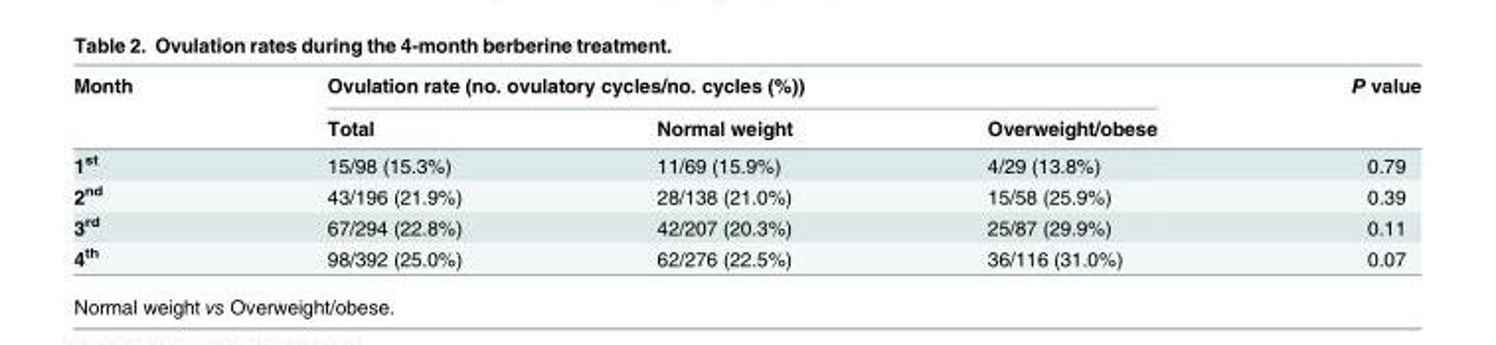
<table><thead><tr><td rowspan="2">Month</td><td colspan="3">Ovulation rate (no. ovulatory cycles/no. cycles (%))</td><td rowspan="2">P value</td></tr><tr><td>Total</td><td>Normal weight</td><td>Overweight/obese</td></tr></thead><tbody><tr><td>1<sup>st</sup></td><td>15/98 (15.3%)</td><td>11/69 (15.9%)</td><td>4/29 (13.8%)</td><td>0.79</td></tr><tr><td>2<sup>nd</sup></td><td>43/196 (21.9%)</td><td>28/138 (21.0%)</td><td>15/58 (25.9%)</td><td>0.39</td></tr><tr><td>3<sup>rd</sup></td><td>67/294 (22.8%)</td><td>42/207 (20.3%)</td><td>25/87 (29.9%)</td><td>0.11</td></tr><tr><td>4<sup>th</sup></td><td>98/392 (25.0%)</td><td>62/276 (22.5%)</td><td>36/116 (31.0%)</td><td>0.07</td></tr></tbody></table>